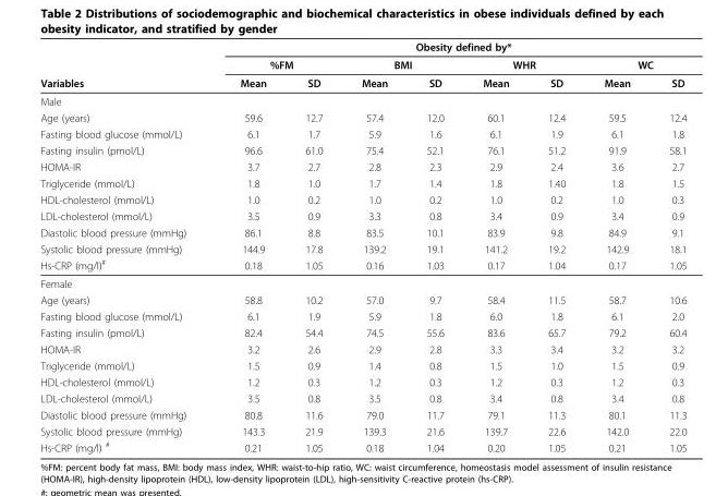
<table><thead><tr><td rowspan="3">Variables</td><td colspan="8">Obesity defined by*</td></tr><tr><td colspan="2">%FM</td><td colspan="2">BMI</td><td colspan="2">WHR</td><td colspan="2">WC</td></tr><tr><td>Mean</td><td>SD</td><td>Mean</td><td>SD</td><td>Mean</td><td>SD</td><td>Mean</td><td>SD</td></tr></thead><tbody><tr><td colspan="9">Male</td></tr><tr><td>Age (years)</td><td>59.6</td><td>12.7</td><td>57.4</td><td>12.0</td><td>60.1</td><td>12.4</td><td>59.5</td><td>12.4</td></tr><tr><td>Fasting blood glucose (mmol/L)</td><td>6.1</td><td>1.7</td><td>5.9</td><td>1.6</td><td>6.1</td><td>1.9</td><td>6.1</td><td>1.8</td></tr><tr><td>Fasting insulin (pmol/L)</td><td>96.6</td><td>61.0</td><td>75.4</td><td>52.1</td><td>76.1</td><td>51.2</td><td>91.9</td><td>58.1</td></tr><tr><td>HOMA-IR</td><td>3.7</td><td>2.7</td><td>2.8</td><td>2.3</td><td>2.9</td><td>2.4</td><td>3.6</td><td>2.7</td></tr><tr><td>Triglyceride (mmol/L)</td><td>1.8</td><td>1.0</td><td>1.7</td><td>1.4</td><td>1.8</td><td>1.40</td><td>1.8</td><td>1.5</td></tr><tr><td>HDL-cholesterol (mmol/L)</td><td>1.0</td><td>0.2</td><td>1.0</td><td>0.2</td><td>1.0</td><td>0.2</td><td>1.0</td><td>0.3</td></tr><tr><td>LDL-cholesterol (mmol/L)</td><td>3.5</td><td>0.9</td><td>3.3</td><td>0.8</td><td>3.4</td><td>0.9</td><td>3.4</td><td>0.9</td></tr><tr><td>Diastolic blood pressure (mmHg)</td><td>86.1</td><td>8.8</td><td>83.5</td><td>10.1</td><td>83.9</td><td>9.8</td><td>84.9</td><td>9.1</td></tr><tr><td>Systolic blood pressure (mmHg)</td><td>144.9</td><td>17.8</td><td>139.2</td><td>19.1</td><td>141.2</td><td>19.2</td><td>142.9</td><td>18.1</td></tr><tr><td>Hs-CRP (mg/l)<sup>#</sup></td><td>0.18</td><td>1.05</td><td>0.16</td><td>1.03</td><td>0.17</td><td>1.04</td><td>0.17</td><td>1.05</td></tr><tr><td colspan="9">Female</td></tr><tr><td>Age (years)</td><td>58.8</td><td>10.2</td><td>57.0</td><td>9.7</td><td>58.4</td><td>11.5</td><td>58.7</td><td>10.6</td></tr><tr><td>Fasting blood glucose (mmol/L)</td><td>6.1</td><td>1.9</td><td>5.9</td><td>1.8</td><td>6.0</td><td>1.8</td><td>6.1</td><td>2.0</td></tr><tr><td>Fasting insulin (pmol/L)</td><td>82.4</td><td>54.4</td><td>74.5</td><td>55.6</td><td>83.6</td><td>65.7</td><td>79.2</td><td>60.4</td></tr><tr><td>HOMA-IR</td><td>3.2</td><td>2.6</td><td>2.9</td><td>2.8</td><td>3.3</td><td>3.4</td><td>3.2</td><td>3.2</td></tr><tr><td>Triglyceride (mmol/L)</td><td>1.5</td><td>0.9</td><td>1.4</td><td>0.8</td><td>1.5</td><td>1.0</td><td>1.5</td><td>0.9</td></tr><tr><td>HDL-cholesterol (mmol/L)</td><td>1.2</td><td>0.3</td><td>1.2</td><td>0.3</td><td>1.2</td><td>0.3</td><td>1.2</td><td>0.3</td></tr><tr><td>LDL-cholesterol (mmol/L)</td><td>3.5</td><td>0.8</td><td>3.5</td><td>0.8</td><td>3.4</td><td>0.8</td><td>3.4</td><td>0.8</td></tr><tr><td>Diastolic blood pressure (mmHg)</td><td>80.8</td><td>11.6</td><td>79.0</td><td>11.7</td><td>79.1</td><td>11.3</td><td>80.1</td><td>11.3</td></tr><tr><td>Systolic blood pressure (mmHg)</td><td>143.3</td><td>21.9</td><td>139.3</td><td>21.6</td><td>139.7</td><td>22.6</td><td>142.0</td><td>22.0</td></tr><tr><td>Hs-CRP (mg/l) <sup>#</sup></td><td>0.21</td><td>1.05</td><td>0.18</td><td>1.04</td><td>0.20</td><td>1.05</td><td>0.21</td><td>1.05</td></tr></tbody></table>